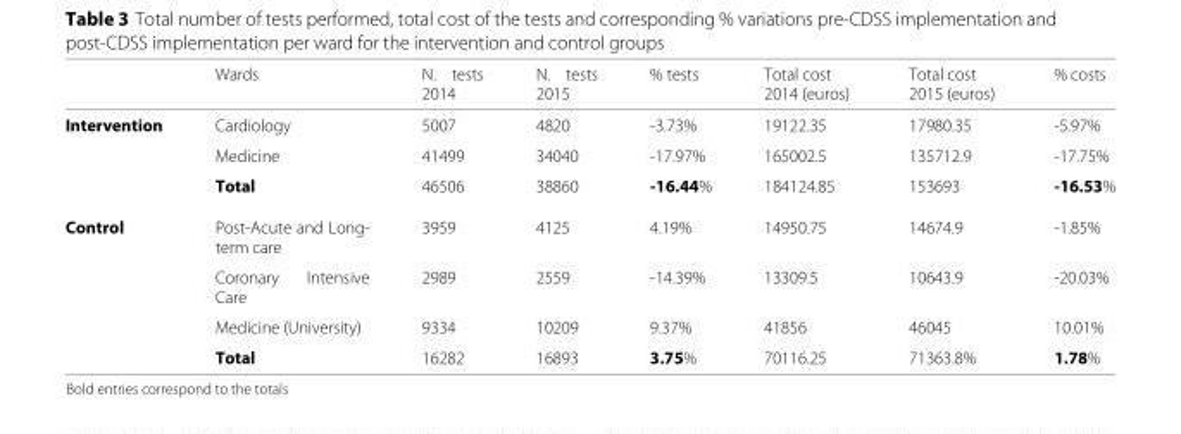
<table><thead><tr><td></td><td>Wards</td><td>N. tests 2014</td><td>N. tests 2015</td><td>% tests</td><td>Total cost 2014 (euros)</td><td>Total cost 2015 (euros)</td><td>% costs</td></tr></thead><tbody><tr><td rowspan="3">Intervention</td><td>Cardiology</td><td>5007</td><td>4820</td><td>-3.73%</td><td>19122.35</td><td>17980.35</td><td>-5.97%</td></tr><tr><td>Medicine</td><td>41499</td><td>34040</td><td>-17.97%</td><td>165002.5</td><td>135712.9</td><td>-17.75%</td></tr><tr><td>Total</td><td>46506</td><td>38860</td><td>-16.44%</td><td>184124.85</td><td>153693</td><td>-16.53%</td></tr><tr><td rowspan="4">Control</td><td>Post-Acute and Long- term care</td><td>3959</td><td>4125</td><td>4.19%</td><td>14950.75</td><td>14674.9</td><td>-1.85%</td></tr><tr><td>Coronary Intensive Care</td><td>2989</td><td>2559</td><td>-14.39%</td><td>13309.5</td><td>10643.9</td><td>-20.03%</td></tr><tr><td>Medicine (University)</td><td>9334</td><td>10209</td><td>9.37%</td><td>41856</td><td>46045</td><td>10.01%</td></tr><tr><td>Total</td><td>16282</td><td>16893</td><td>3.75%</td><td>70116.25</td><td>71363.8%</td><td>1.78%</td></tr></tbody></table>